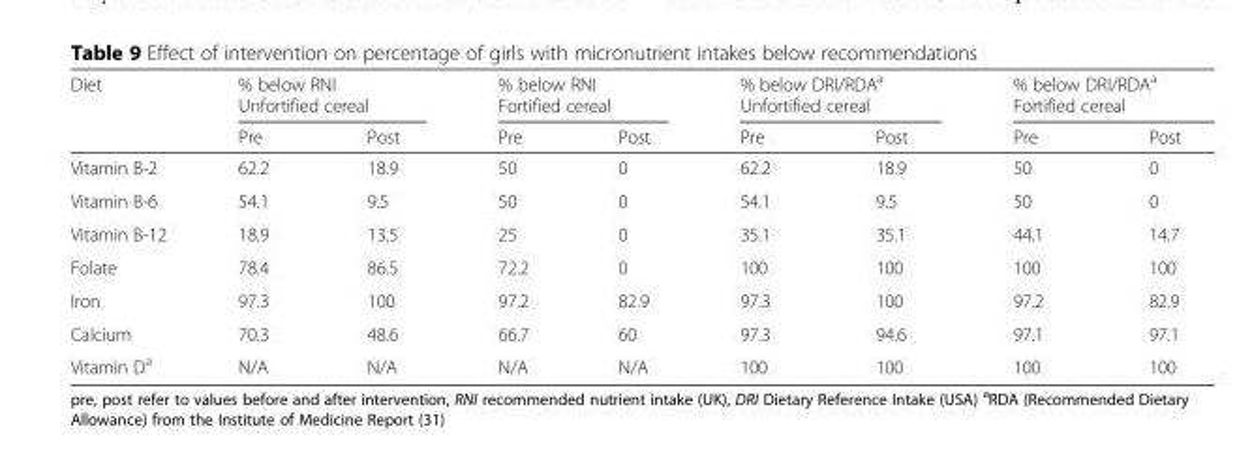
<table><thead><tr><td rowspan="2">Diet</td><td colspan="2">% below RNI Unfortified cereal</td><td colspan="2">% below RNI Fortified cereal</td><td colspan="2">% below DRI/RDA<sup>a</sup> Unfortified cereal</td><td colspan="2">% below DRI/RDA<sup>a</sup> Fortified cereal</td></tr><tr><td>Pre</td><td>Post</td><td>Pre</td><td>Post</td><td>Pre</td><td>Post</td><td>Pre</td><td>Post</td></tr></thead><tbody><tr><td>Vitamin B-2</td><td>62.2</td><td>18.9</td><td>50</td><td>0</td><td>62.2</td><td>18.9</td><td>50</td><td>0</td></tr><tr><td>Vitamin B-6</td><td>54.1</td><td>9.5</td><td>50</td><td>0</td><td>54.1</td><td>9.5</td><td>50</td><td>0</td></tr><tr><td>Vitamin B-12</td><td>18.9</td><td>13.5</td><td>25</td><td>0</td><td>35.1</td><td>35.1</td><td>44.1</td><td>14.7</td></tr><tr><td>Folate</td><td>78.4</td><td>86.5</td><td>72.2</td><td>0</td><td>100</td><td>100</td><td>100</td><td>100</td></tr><tr><td>Iron</td><td>97.3</td><td>100</td><td>97.2</td><td>82.9</td><td>97.3</td><td>100</td><td>97.2</td><td>82.9</td></tr><tr><td>Calcium</td><td>70.3</td><td>48.6</td><td>66.7</td><td>60</td><td>97.3</td><td>94.6</td><td>97.1</td><td>97.1</td></tr><tr><td>Vitamin D<sup>a</sup></td><td>N/A</td><td>N/A</td><td>N/A</td><td>N/A</td><td>100</td><td>100</td><td>100</td><td>100</td></tr></tbody></table>